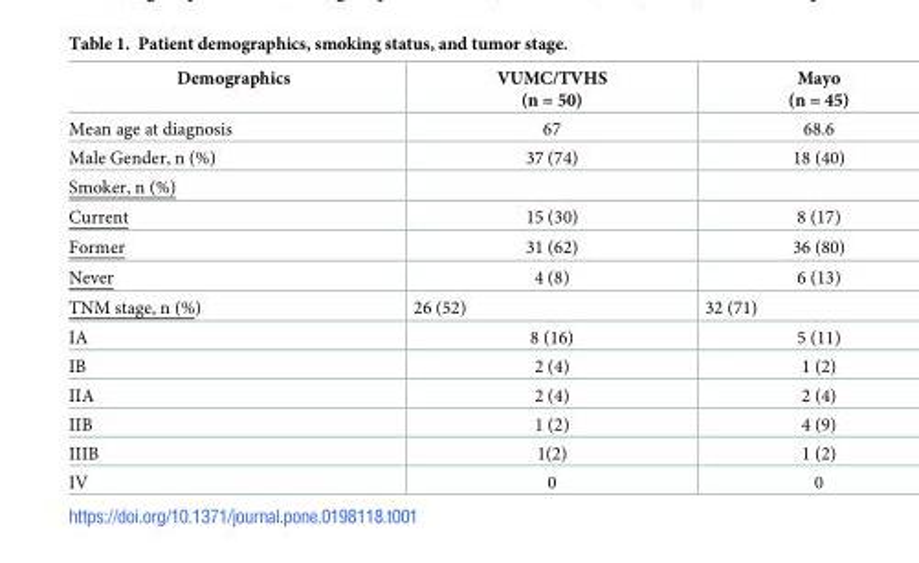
<table><thead><tr><td>Demographics</td><td>VUMC/TVHS (n = 50)</td><td>Mayo (n = 45)</td></tr></thead><tbody><tr><td>Mean age at diagnosis</td><td>67</td><td>68.6</td></tr><tr><td>Male Gender, n (%)</td><td>37 (74)</td><td>18 (40)</td></tr><tr><td colspan="3">Smoker, n (%)</td></tr><tr><td>Current</td><td>15 (30)</td><td>8 (17)</td></tr><tr><td>Former</td><td>31 (62)</td><td>36 (80)</td></tr><tr><td>Never</td><td>4 (8)</td><td>6 (13)</td></tr><tr><td>TNM stage, n (%)</td><td>26 (52)</td><td>32 (71)</td></tr><tr><td>IA</td><td>8 (16)</td><td>5 (11)</td></tr><tr><td>IB</td><td>2 (4)</td><td>1 (2)</td></tr><tr><td>IIA</td><td>2 (4)</td><td>2 (4)</td></tr><tr><td>IIB</td><td>1 (2)</td><td>4 (9)</td></tr><tr><td>IIIB</td><td>1(2)</td><td>1 (2)</td></tr><tr><td>IV</td><td>0</td><td>0</td></tr></tbody></table>